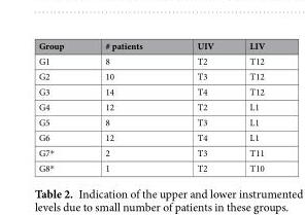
<table><thead><tr><td>Group</td><td># patients</td><td>UIV</td><td>LIV</td></tr></thead><tbody><tr><td>G1</td><td>8</td><td>T2</td><td>T12</td></tr><tr><td>G2</td><td>10</td><td>T3</td><td>T12</td></tr><tr><td>G3</td><td>14</td><td>T4</td><td>T12</td></tr><tr><td>G4</td><td>12</td><td>T2</td><td>L1</td></tr><tr><td>G5</td><td>8</td><td>T3</td><td>L1</td></tr><tr><td>G6</td><td>12</td><td>T4</td><td>L1</td></tr><tr><td>G7*</td><td>2</td><td>T3</td><td>T11</td></tr><tr><td>G8*</td><td>1</td><td>T2</td><td>T10</td></tr></tbody></table>